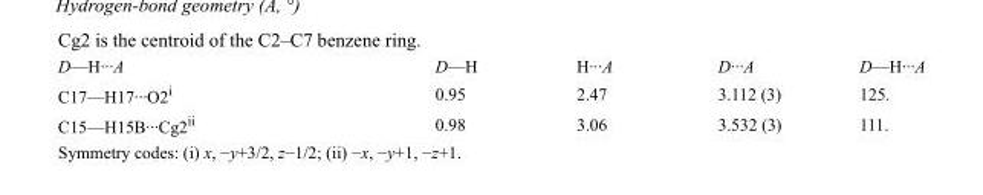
<table><tbody><tr><td>D—H···A</td><td>D—H</td><td>H···A</td><td>D···A</td><td>D—H···A</td></tr><tr><td>C17—H17···O2<sup>i</sup></td><td>0.95</td><td>2.47</td><td>3.112 (3)</td><td>125.</td></tr><tr><td>C15—H15B···Cg2<sup>ii</sup></td><td>0.98</td><td>3.06</td><td>3.532 (3)</td><td>111.</td></tr></tbody></table>